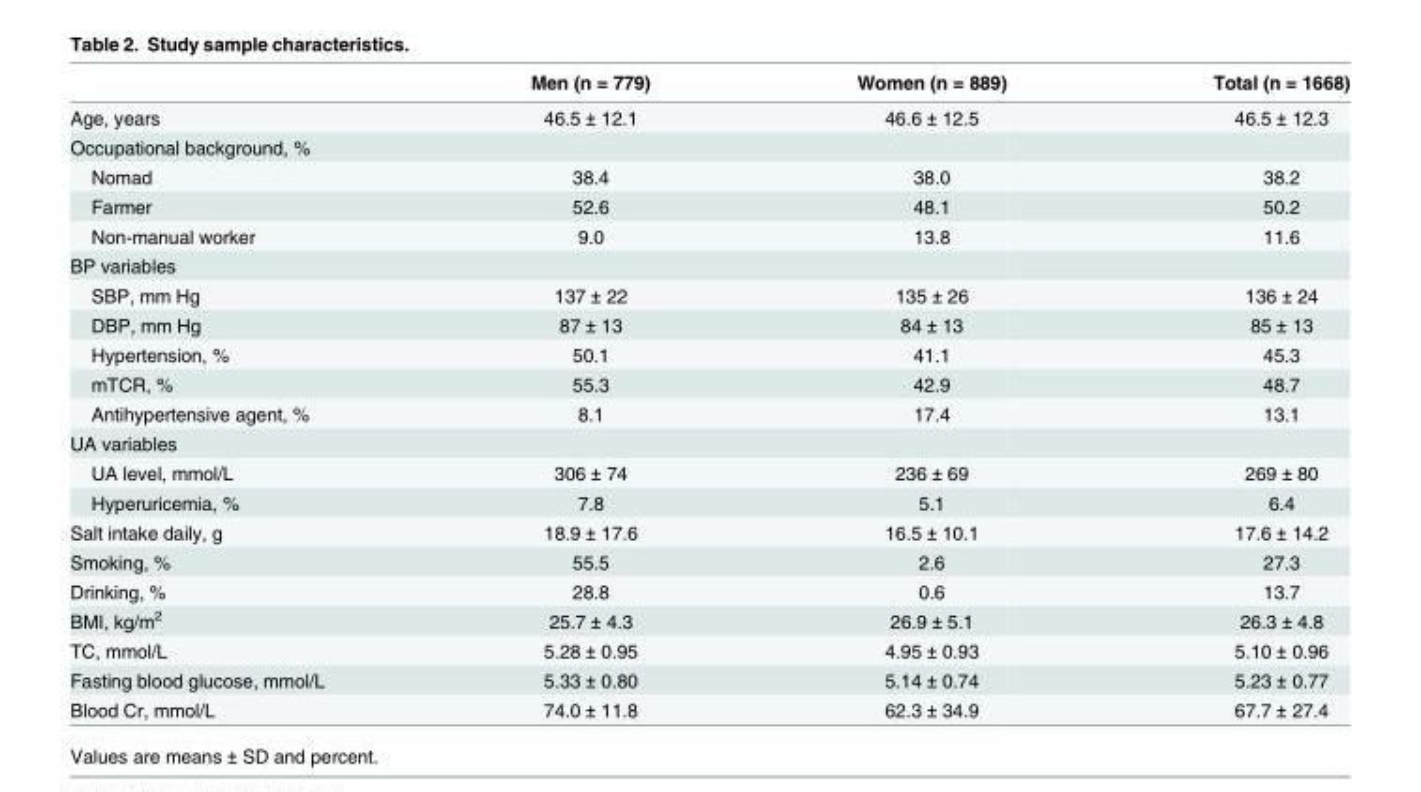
<table><thead><tr><td></td><td>Men (n = 779)</td><td>Women (n = 889)</td><td>Total (n = 1668)</td></tr></thead><tbody><tr><td>Age, years</td><td>46.5 ± 12.1</td><td>46.6 ± 12.5</td><td>46.5 ± 12.3</td></tr><tr><td colspan="4">Occupational background, %</td></tr><tr><td>Nomad</td><td>38.4</td><td>38.0</td><td>38.2</td></tr><tr><td>Farmer</td><td>52.6</td><td>48.1</td><td>50.2</td></tr><tr><td>Non-manual worker</td><td>9.0</td><td>13.8</td><td>11.6</td></tr><tr><td colspan="4">BP variables</td></tr><tr><td>SBP, mm Hg</td><td>137 ± 22</td><td>135 ± 26</td><td>136 ± 24</td></tr><tr><td>DBP, mm Hg</td><td>87 ± 13</td><td>84 ± 13</td><td>85 ± 13</td></tr><tr><td>Hypertension, %</td><td>50.1</td><td>41.1</td><td>45.3</td></tr><tr><td>mTCR, %</td><td>55.3</td><td>42.9</td><td>48.7</td></tr><tr><td>Antihypertensive agent, %</td><td>8.1</td><td>17.4</td><td>13.1</td></tr><tr><td colspan="4">UA variables</td></tr><tr><td>UA level, mmol/L</td><td>306 ± 74</td><td>236 ± 69</td><td>269 ± 80</td></tr><tr><td>Hyperuricemia, %</td><td>7.8</td><td>5.1</td><td>6.4</td></tr><tr><td>Salt intake daily, g</td><td>18.9 ± 17.6</td><td>16.5 ± 10.1</td><td>17.6 ± 14.2</td></tr><tr><td>Smoking, %</td><td>55.5</td><td>2.6</td><td>27.3</td></tr><tr><td>Drinking, %</td><td>28.8</td><td>0.6</td><td>13.7</td></tr><tr><td>BMI, kg/m<sup>2</sup></td><td>25.7 ± 4.3</td><td>26.9 ± 5.1</td><td>26.3 ± 4.8</td></tr><tr><td>TC, mmol/L</td><td>5.28 ± 0.95</td><td>4.95 ± 0.93</td><td>5.10 ± 0.96</td></tr><tr><td>Fasting blood glucose, mmol/L</td><td>5.33 ± 0.80</td><td>5.14 ± 0.74</td><td>5.23 ± 0.77</td></tr><tr><td>Blood Cr, mmol/L</td><td>74.0 ± 11.8</td><td>62.3 ± 34.9</td><td>67.7 ± 27.4</td></tr></tbody></table>